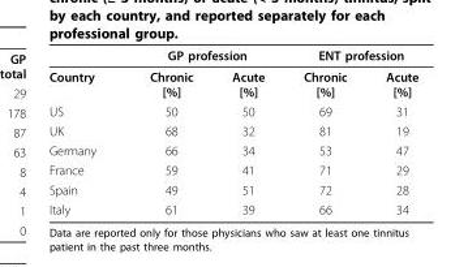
<table><thead><tr><td rowspan="2">Country</td><td colspan="2">GP profession</td><td colspan="2">ENT profession</td></tr><tr><td>Chronic [%]</td><td>Acute [%]</td><td>Chronic [%]</td><td>Acute [%]</td></tr></thead><tbody><tr><td>US</td><td>50</td><td>50</td><td>69</td><td>31</td></tr><tr><td>UK</td><td>68</td><td>32</td><td>81</td><td>19</td></tr><tr><td>Germany</td><td>66</td><td>34</td><td>53</td><td>47</td></tr><tr><td>France</td><td>59</td><td>41</td><td>71</td><td>29</td></tr><tr><td>Spain</td><td>49</td><td>51</td><td>72</td><td>28</td></tr><tr><td>Italy</td><td>61</td><td>39</td><td>66</td><td>34</td></tr></tbody></table>